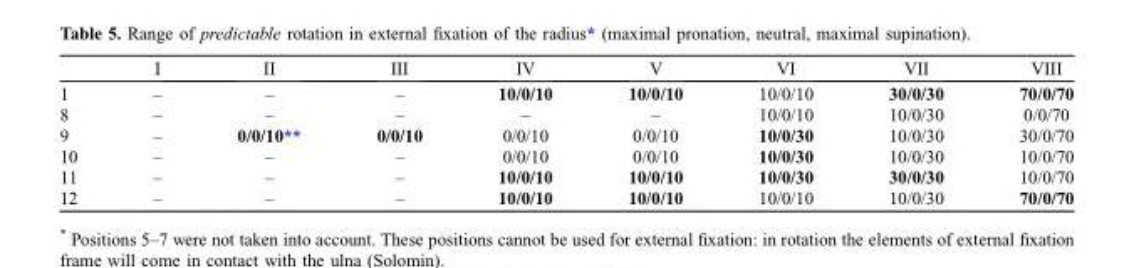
<table><thead><tr><td></td><td>I</td><td>II</td><td>III</td><td>IV</td><td>V</td><td>VI</td><td>VII</td><td>VIII</td></tr></thead><tbody><tr><td>1</td><td>–</td><td>–</td><td>–</td><td>10/0/10</td><td>10/0/10</td><td>10/0/10</td><td>30/0/30</td><td>70/0/70</td></tr><tr><td>8</td><td>–</td><td>–</td><td>–</td><td>–</td><td>–</td><td>10/0/10</td><td>10/0/30</td><td>0/0/70</td></tr><tr><td>9</td><td>–</td><td>0/0/10**</td><td>0/0/10</td><td>0/0/10</td><td>0/0/10</td><td>10/0/30</td><td>10/0/30</td><td>30/0/70</td></tr><tr><td>10</td><td>–</td><td>–</td><td>–</td><td>0/0/10</td><td>0/0/10</td><td>10/0/30</td><td>10/0/30</td><td>10/0/70</td></tr><tr><td>11</td><td>–</td><td>–</td><td>–</td><td>10/0/10</td><td>10/0/10</td><td>10/0/30</td><td>30/0/30</td><td>10/0/70</td></tr><tr><td>12</td><td>–</td><td>–</td><td>–</td><td>10/0/10</td><td>10/0/10</td><td>10/0/10</td><td>10/0/30</td><td>70/0/70</td></tr></tbody></table>